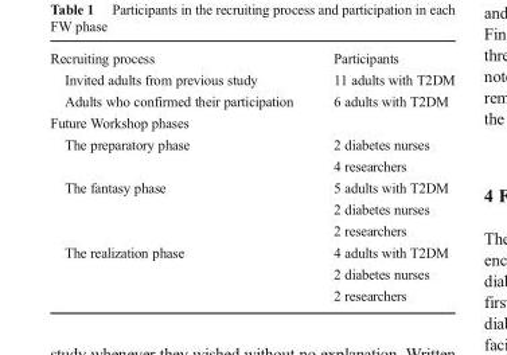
<table><tbody><tr><td>Recruiting process</td><td>Participants</td></tr><tr><td>Invited adults from previous study</td><td>11 adults with T2DM</td></tr><tr><td>Adults who confirmed their participation</td><td>6 adults with T2DM</td></tr><tr><td colspan="2">Future Workshop phases</td></tr><tr><td rowspan="2">The preparatory phase</td><td>2 diabetes nurses</td></tr><tr><td>4 researchers</td></tr><tr><td rowspan="3">The fantasy phase</td><td>5 adults with T2DM</td></tr><tr><td>2 diabetes nurses</td></tr><tr><td>2 researchers</td></tr><tr><td rowspan="3">The realization phase</td><td>4 adults with T2DM</td></tr><tr><td>2 diabetes nurses</td></tr><tr><td>2 researchers</td></tr></tbody></table>